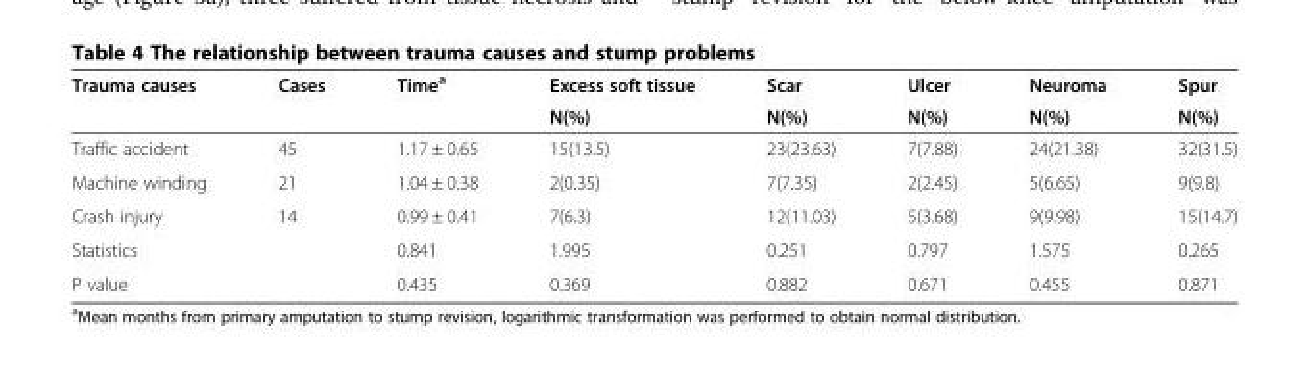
<table><thead><tr><td rowspan="2">Trauma causes</td><td rowspan="2">Cases</td><td rowspan="2">Time<sup>a</sup></td><td rowspan="2">Excess soft tissue N(%)</td><td rowspan="2">Scar N(%)</td><td rowspan="2">Ulcer N(%)</td><td rowspan="2">Neuroma N(%)</td><td rowspan="2">Spur N(%)</td></tr><tr></tr></thead><tbody><tr><td>Traffic accident</td><td>45</td><td>1.17 ± 0.65</td><td>15(13.5)</td><td>23(23.63)</td><td>7(7.88)</td><td>24(21.38)</td><td>32(31.5)</td></tr><tr><td>Machine winding</td><td>21</td><td>1.04 ± 0.38</td><td>2(0.35)</td><td>7(7.35)</td><td>2(2.45)</td><td>5(6.65)</td><td>9(9.8)</td></tr><tr><td>Crash injury</td><td>14</td><td>0.99 ± 0.41</td><td>7(6.3)</td><td>12(11.03)</td><td>5(3.68)</td><td>9(9.98)</td><td>15(14.7)</td></tr><tr><td>Statistics</td><td></td><td>0.841</td><td>1.995</td><td>0.251</td><td>0.797</td><td>1.575</td><td>0.265</td></tr><tr><td>P value</td><td></td><td>0.435</td><td>0.369</td><td>0.882</td><td>0.671</td><td>0.455</td><td>0.871</td></tr></tbody></table>